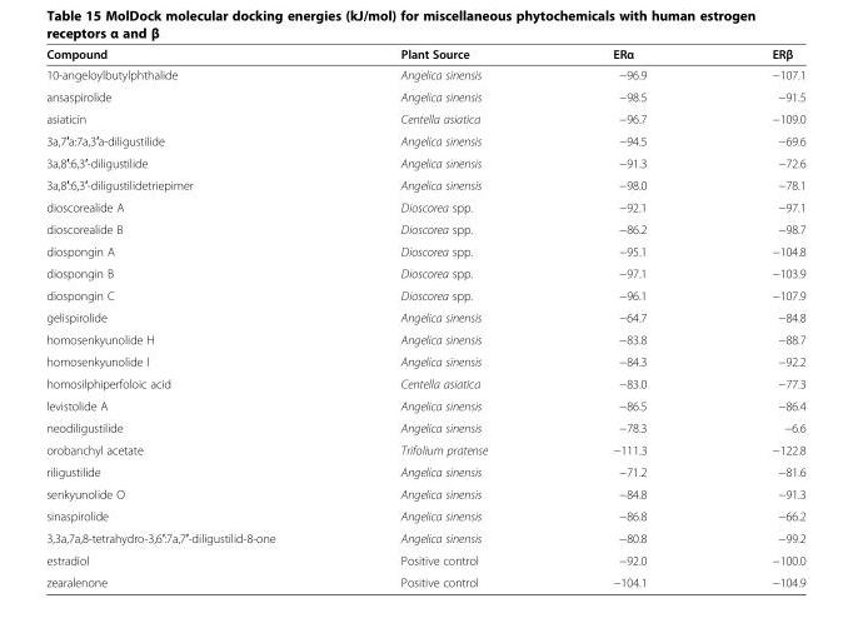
<table><thead><tr><td>Compound</td><td>Plant Source</td><td>ERα</td><td>ERβ</td></tr></thead><tbody><tr><td>10-angeloylbutylphthalide</td><td>Angelica sinensis</td><td>−96.9</td><td>−107.1</td></tr><tr><td>ansaspirolide</td><td>Angelica sinensis</td><td>−98.5</td><td>−91.5</td></tr><tr><td>asiaticin</td><td>Centella asiatica</td><td>−96.7</td><td>−109.0</td></tr><tr><td>3a,7′a:7a,3′a-diligustilide</td><td>Angelica sinensis</td><td>−94.5</td><td>−69.6</td></tr><tr><td>3a,8′:6,3′-diligustilide</td><td>Angelica sinensis</td><td>−91.3</td><td>−72.6</td></tr><tr><td>3a,8′:6,3′-diligustilidetriepimer</td><td>Angelica sinensis</td><td>−98.0</td><td>−78.1</td></tr><tr><td>dioscorealide A</td><td>Dioscorea spp.</td><td>−92.1</td><td>−97.1</td></tr><tr><td>dioscorealide B</td><td>Dioscorea spp.</td><td>−86.2</td><td>−98.7</td></tr><tr><td>diospongin A</td><td>Dioscorea spp.</td><td>−95.1</td><td>−104.8</td></tr><tr><td>diospongin B</td><td>Dioscorea spp.</td><td>−97.1</td><td>−103.9</td></tr><tr><td>diospongin C</td><td>Dioscorea spp.</td><td>−96.1</td><td>−107.9</td></tr><tr><td>gelispirolide</td><td>Angelica sinensis</td><td>−64.7</td><td>−84.8</td></tr><tr><td>homosenkyunolide H</td><td>Angelica sinensis</td><td>−83.8</td><td>−88.7</td></tr><tr><td>homosenkyunolide I</td><td>Angelica sinensis</td><td>−84.3</td><td>−92.2</td></tr><tr><td>homosilphiperfoloic acid</td><td>Centella asiatica</td><td>−83.0</td><td>−77.3</td></tr><tr><td>levistolide A</td><td>Angelica sinensis</td><td>−86.5</td><td>−86.4</td></tr><tr><td>neodiligustilide</td><td>Angelica sinensis</td><td>−78.3</td><td>−6.6</td></tr><tr><td>orobanchyl acetate</td><td>Trifolium pratense</td><td>−111.3</td><td>−122.8</td></tr><tr><td>riligustilide</td><td>Angelica sinensis</td><td>−71.2</td><td>−81.6</td></tr><tr><td>senkyunolide O</td><td>Angelica sinensis</td><td>−84.8</td><td>−91.3</td></tr><tr><td>sinaspirolide</td><td>Angelica sinensis</td><td>−86.8</td><td>−66.2</td></tr><tr><td>3,3a,7a,8-tetrahydro-3,6′:7a,7′-diligustilid-8-one</td><td>Angelica sinensis</td><td>−80.8</td><td>−99.2</td></tr><tr><td>estradiol</td><td>Positive control</td><td>−92.0</td><td>−100.0</td></tr><tr><td>zearalenone</td><td>Positive control</td><td>−104.1</td><td>−104.9</td></tr></tbody></table>